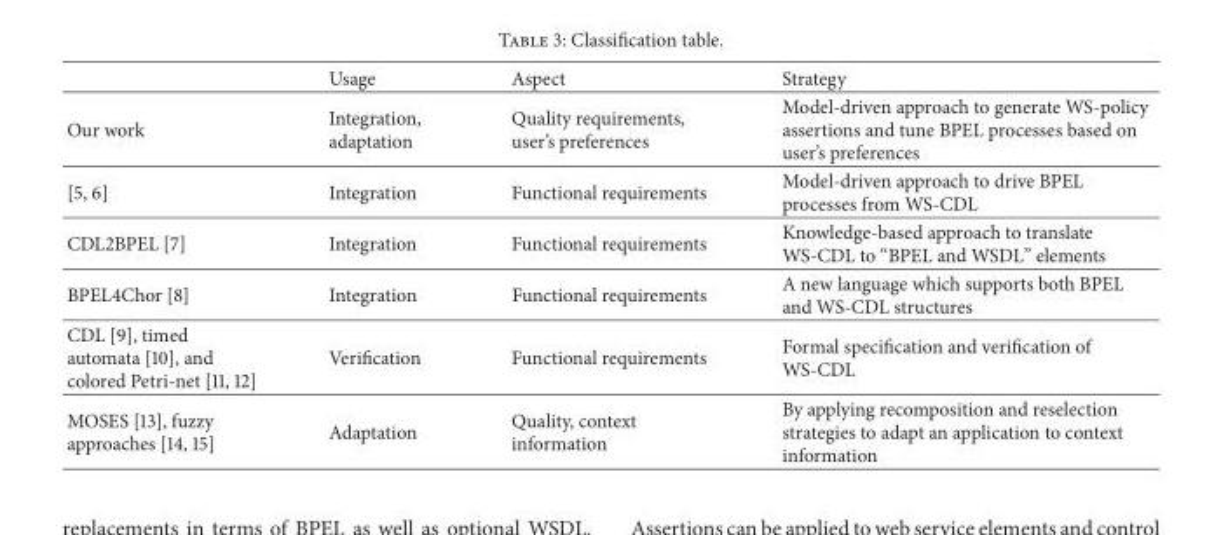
<table><thead><tr><td></td><td>Usage</td><td>Aspect</td><td>Strategy</td></tr></thead><tbody><tr><td>Our work</td><td>Integration, adaptation</td><td>Quality requirements, user’s preferences</td><td>Model-driven approach to generate WS-policy assertions and tune BPEL processes based on user’s preferences</td></tr><tr><td>[5, 6]</td><td>Integration</td><td>Functional requirements</td><td>Model-driven approach to drive BPEL processes from WS-CDL</td></tr><tr><td>CDL2BPEL [7]</td><td>Integration</td><td>Functional requirements</td><td>Knowledge-based approach to translate WS-CDL to “BPEL and WSDL” elements</td></tr><tr><td>BPEL4Chor [8]</td><td>Integration</td><td>Functional requirements</td><td>A new language which supports both BPEL and WS-CDL structures</td></tr><tr><td>CDL [9], timed automata [10], and colored Petri-net [11, 12]</td><td>Verification</td><td>Functional requirements</td><td>Formal specification and verification of WS-CDL</td></tr><tr><td>MOSES [13], fuzzy approaches [14, 15]</td><td>Adaptation</td><td>Quality, context information</td><td>By applying recomposition and reselection strategies to adapt an application to context information</td></tr></tbody></table>